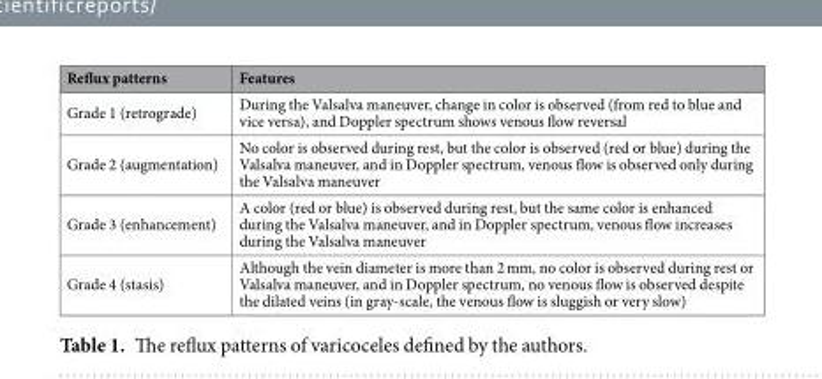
<table><thead><tr><td>Reflux patterns</td><td>Features</td></tr></thead><tbody><tr><td>Grade 1 (retrograde)</td><td>During the Valsalva maneuver, change in color is observed (from red to blue and vice versa), and Doppler spectrum shows venous flow reversal</td></tr><tr><td>Grade 2 (augmentation)</td><td>No color is observed during rest, but the color is observed (red or blue) during the Valsalva maneuver, and in Doppler spectrum, venous flow is observed only during the Valsalva maneuver</td></tr><tr><td>Grade 3 (enhancement)</td><td>A color (red or blue) is observed during rest, but the same color is enhanced during the Valsalva maneuver, and in Doppler spectrum, venous flow increases during the Valsalva maneuver</td></tr><tr><td>Grade 4 (stasis)</td><td>Although the vein diameter is more than 2 mm, no color is observed during rest or Valsalva maneuver, and in Doppler spectrum, no venous flow is observed despite the dilated veins (in gray-scale, the venous flow is sluggish or very slow)</td></tr></tbody></table>